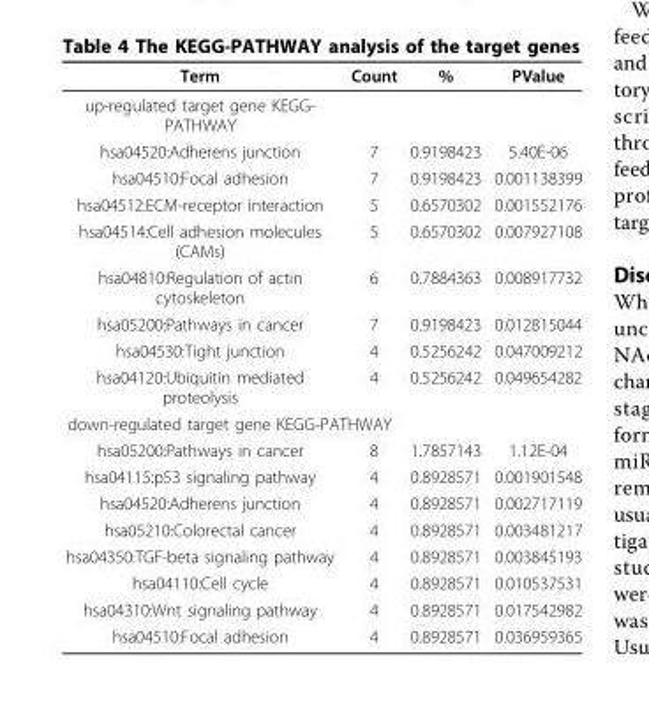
<table><thead><tr><td>Term</td><td>Count</td><td>%</td><td>PValue</td></tr></thead><tbody><tr><td colspan="4">up-regulated target gene KEGG- PATHWAY</td></tr><tr><td>hsa04520:Adherens junction</td><td>7</td><td>0.9198423</td><td>5.40E-06</td></tr><tr><td>hsa04510:Focal adhesion</td><td>7</td><td>0.9198423</td><td>0.001138399</td></tr><tr><td>hsa04512:ECM-receptor interaction</td><td>5</td><td>0.6570302</td><td>0.001552176</td></tr><tr><td>hsa04514:Cell adhesion molecules (CAMs)</td><td>5</td><td>0.6570302</td><td>0.007927108</td></tr><tr><td>hsa04810:Regulation of actin cytoskeleton</td><td>6</td><td>0.7884363</td><td>0.008917732</td></tr><tr><td>hsa05200:Pathways in cancer</td><td>7</td><td>0.9198423</td><td>0.012815044</td></tr><tr><td>hsa04530:Tight junction</td><td>4</td><td>0.5256242</td><td>0.047009212</td></tr><tr><td>hsa04120:Ubiquitin mediated proteolysis</td><td>4</td><td>0.5256242</td><td>0.049654282</td></tr><tr><td colspan="4">down-regulated target gene KEGG-PATHWAY</td></tr><tr><td>hsa05200:Pathways in cancer</td><td>8</td><td>1.7857143</td><td>1.12E-04</td></tr><tr><td>hsa04115:p53 signaling pathway</td><td>4</td><td>0.8928571</td><td>0.001901548</td></tr><tr><td>hsa04520:Adherens junction</td><td>4</td><td>0.8928571</td><td>0.002717119</td></tr><tr><td>hsa05210:Colorectal cancer</td><td>4</td><td>0.8928571</td><td>0.003481217</td></tr><tr><td>hsa04350:TGF-beta signaling pathway</td><td>4</td><td>0.8928571</td><td>0.003845193</td></tr><tr><td>hsa04110:Cell cycle</td><td>4</td><td>0.8928571</td><td>0.010537531</td></tr><tr><td>hsa04310:Wnt signaling pathway</td><td>4</td><td>0.8928571</td><td>0.017542982</td></tr><tr><td>hsa04510:Focal adhesion</td><td>4</td><td>0.8928571</td><td>0.036959365</td></tr></tbody></table>